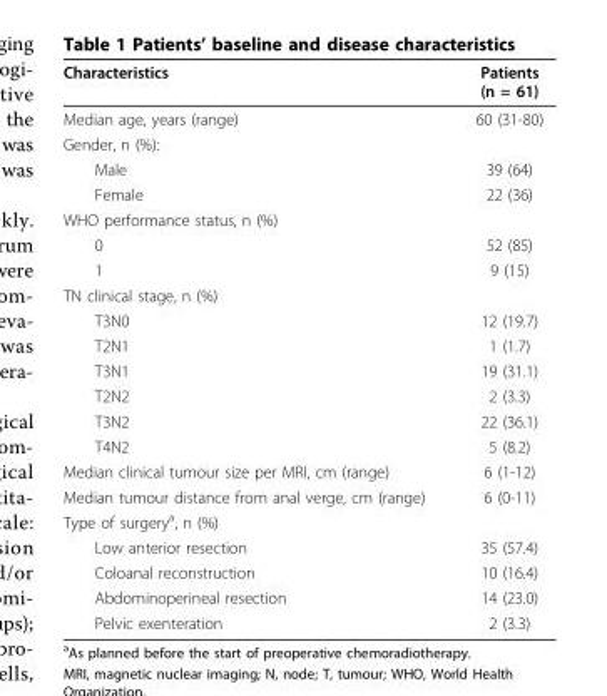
<table><thead><tr><td>Characteristics</td><td>Patients (n = 61)</td></tr></thead><tbody><tr><td>Median age, years (range)</td><td>60 (31-80)</td></tr><tr><td colspan="2">Gender, n (%):</td></tr><tr><td>Male</td><td>39 (64)</td></tr><tr><td>Female</td><td>22 (36)</td></tr><tr><td colspan="2">WHO performance status, n (%)</td></tr><tr><td>0</td><td>52 (85)</td></tr><tr><td>1</td><td>9 (15)</td></tr><tr><td colspan="2">TN clinical stage, n (%)</td></tr><tr><td>T3N0</td><td>12 (19.7)</td></tr><tr><td>T2N1</td><td>1 (1.7)</td></tr><tr><td>T3N1</td><td>19 (31.1)</td></tr><tr><td>T2N2</td><td>2 (3.3)</td></tr><tr><td>T3N2</td><td>22 (36.1)</td></tr><tr><td>T4N2</td><td>5 (8.2)</td></tr><tr><td>Median clinical tumour size per MRI, cm (range)</td><td>6 (1-12)</td></tr><tr><td>Median tumour distance from anal verge, cm (range)</td><td>6 (0-11)</td></tr><tr><td colspan="2">Type of surgery<sup>a</sup>, n (%)</td></tr><tr><td>Low anterior resection</td><td>35 (57.4)</td></tr><tr><td>Coloanal reconstruction</td><td>10 (16.4)</td></tr><tr><td>Abdominoperineal resection</td><td>14 (23.0)</td></tr><tr><td>Pelvic exenteration</td><td>2 (3.3)</td></tr></tbody></table>